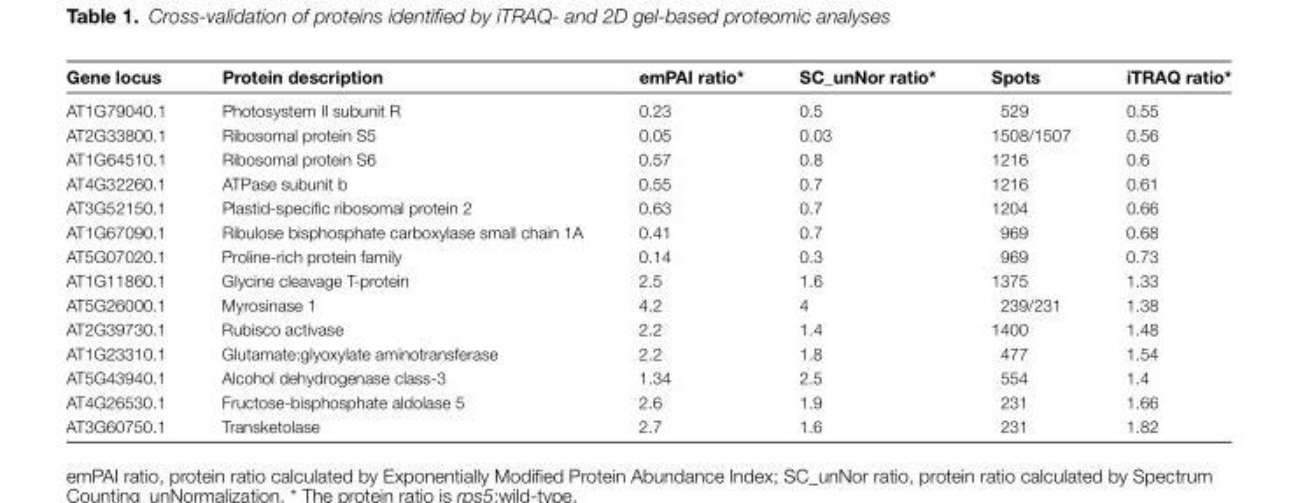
<table><thead><tr><td>Gene locus</td><td>Protein description</td><td>emPAI ratio*</td><td>SC_unNor ratio*</td><td>Spots</td><td>iTRAQ ratio*</td></tr></thead><tbody><tr><td>AT1G79040.1</td><td>Photosystem II subunit R</td><td>0.23</td><td>0.5</td><td>529</td><td>0.55</td></tr><tr><td>AT2G33800.1</td><td>Ribosomal protein S5</td><td>0.05</td><td>0.03</td><td>1508/1507</td><td>0.56</td></tr><tr><td>AT1G64510.1</td><td>Ribosomal protein S6</td><td>0.57</td><td>0.8</td><td>1216</td><td>0.6</td></tr><tr><td>AT4G32260.1</td><td>ATPase subunit b</td><td>0.55</td><td>0.7</td><td>1216</td><td>0.61</td></tr><tr><td>AT3G52150.1</td><td>Plastid-specific ribosomal protein 2</td><td>0.63</td><td>0.7</td><td>1204</td><td>0.66</td></tr><tr><td>AT1G67090.1</td><td>Ribulose bisphosphate carboxylase small chain 1A</td><td>0.41</td><td>0.7</td><td>969</td><td>0.68</td></tr><tr><td>AT5G07020.1</td><td>Proline-rich protein family</td><td>0.14</td><td>0.3</td><td>969</td><td>0.73</td></tr><tr><td>AT1G11860.1</td><td>Glycine cleavage T-protein</td><td>2.5</td><td>1.6</td><td>1375</td><td>1.33</td></tr><tr><td>AT5G26000.1</td><td>Myrosinase 1</td><td>4.2</td><td>4</td><td>239/231</td><td>1.38</td></tr><tr><td>AT2G39730.1</td><td>Rubisco activase</td><td>2.2</td><td>1.4</td><td>1400</td><td>1.48</td></tr><tr><td>AT1G23310.1</td><td>Glutamate:glyoxylate aminotransferase</td><td>2.2</td><td>1.8</td><td>477</td><td>1.54</td></tr><tr><td>AT5G43940.1</td><td>Alcohol dehydrogenase class-3</td><td>1.34</td><td>2.5</td><td>554</td><td>1.4</td></tr><tr><td>AT4G26530.1</td><td>Fructose-bisphosphate aldolase 5</td><td>2.6</td><td>1.9</td><td>231</td><td>1.66</td></tr><tr><td>AT3G60750.1</td><td>Transketolase</td><td>2.7</td><td>1.6</td><td>231</td><td>1.82</td></tr></tbody></table>